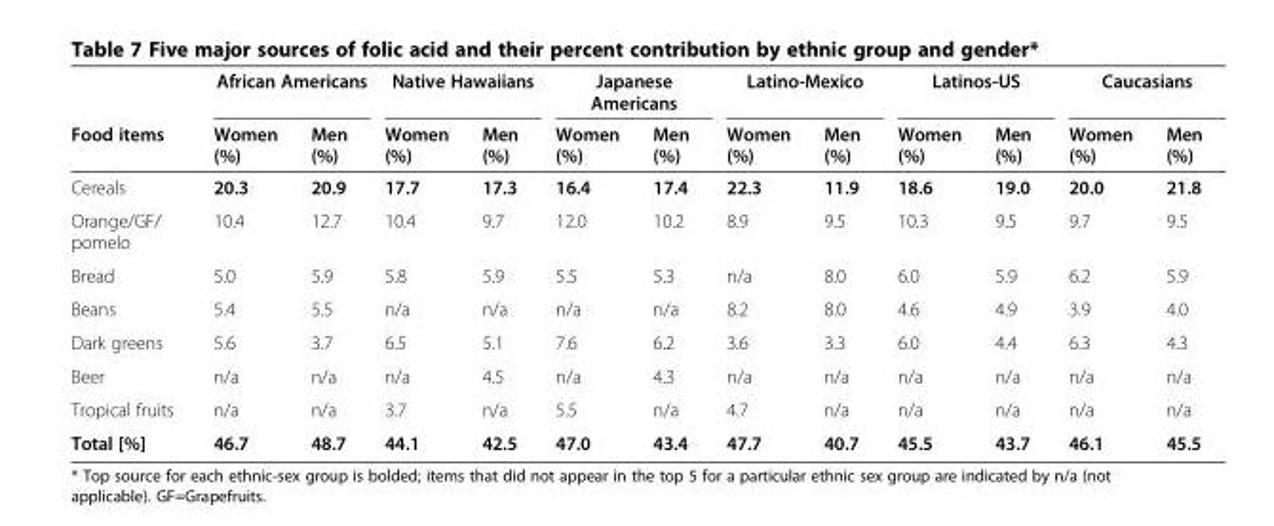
<table><thead><tr><td rowspan="2">Food items</td><td colspan="2">African Americans</td><td colspan="2">Native Hawaiians</td><td colspan="2">Japanese Americans</td><td colspan="2">Latino-Mexico</td><td colspan="2">Latinos-US</td><td colspan="2">Caucasians</td></tr><tr><td>Women (%)</td><td>Men (%)</td><td>Women (%)</td><td>Men (%)</td><td>Women (%)</td><td>Men (%)</td><td>Women (%)</td><td>Men (%)</td><td>Women (%)</td><td>Men (%)</td><td>Women (%)</td><td>Men (%)</td></tr></thead><tbody><tr><td>Cereals</td><td>20.3</td><td>20.9</td><td>17.7</td><td>17.3</td><td>16.4</td><td>17.4</td><td>22.3</td><td>11.9</td><td>18.6</td><td>19.0</td><td>20.0</td><td>21.8</td></tr><tr><td>Orange/GF/ pomelo</td><td>10.4</td><td>12.7</td><td>10.4</td><td>9.7</td><td>12.0</td><td>10.2</td><td>8.9</td><td>9.5</td><td>10.3</td><td>9.5</td><td>9.7</td><td>9.5</td></tr><tr><td>Bread</td><td>5.0</td><td>5.9</td><td>5.8</td><td>5.9</td><td>5.5</td><td>5.3</td><td>n/a</td><td>8.0</td><td>6.0</td><td>5.9</td><td>6.2</td><td>5.9</td></tr><tr><td>Beans</td><td>5.4</td><td>5.5</td><td>n/a</td><td>n/a</td><td>n/a</td><td>n/a</td><td>8.2</td><td>8.0</td><td>4.6</td><td>4.9</td><td>3.9</td><td>4.0</td></tr><tr><td>Dark greens</td><td>5.6</td><td>3.7</td><td>6.5</td><td>5.1</td><td>7.6</td><td>6.2</td><td>3.6</td><td>3.3</td><td>6.0</td><td>4.4</td><td>6.3</td><td>4.3</td></tr><tr><td>Beer</td><td>n/a</td><td>n/a</td><td>n/a</td><td>4.5</td><td>n/a</td><td>4.3</td><td>n/a</td><td>n/a</td><td>n/a</td><td>n/a</td><td>n/a</td><td>n/a</td></tr><tr><td>Tropical fruits</td><td>n/a</td><td>n/a</td><td>3.7</td><td>n/a</td><td>5.5</td><td>n/a</td><td>4.7</td><td>n/a</td><td>n/a</td><td>n/a</td><td>n/a</td><td>n/a</td></tr><tr><td>Total [%]</td><td>46.7</td><td>48.7</td><td>44.1</td><td>42.5</td><td>47.0</td><td>43.4</td><td>47.7</td><td>40.7</td><td>45.5</td><td>43.7</td><td>46.1</td><td>45.5</td></tr></tbody></table>